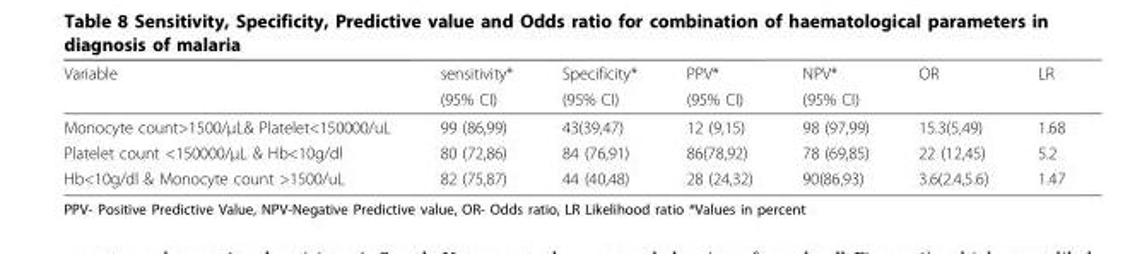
<table><thead><tr><td rowspan="2">Variable</td><td rowspan="2">sensitivity* (95% CI)</td><td rowspan="2">Specificity* (95% CI)</td><td rowspan="2">PPV* (95% CI)</td><td rowspan="2">NPV* (95% CI)</td><td rowspan="2">OR</td><td rowspan="2">LR</td></tr><tr></tr></thead><tbody><tr><td>Monocyte count&gt;1500/μL&amp; Platelet&lt;150000/uL</td><td>99 (86,99)</td><td>43(39,47)</td><td>12 (9,15)</td><td>98 (97,99)</td><td>15.3(5,49)</td><td>1.68</td></tr><tr><td>Platelet count &lt;150000/μL &amp; Hb&lt;10g/dl</td><td>80 (72,86)</td><td>84 (76,91)</td><td>86(78,92)</td><td>78 (69,85)</td><td>22 (12,45)</td><td>5.2</td></tr><tr><td>Hb&lt;10g/dl &amp; Monocyte count &gt;1500/uL</td><td>82 (75,87)</td><td>44 (40,48)</td><td>28 (24,32)</td><td>90(86,93)</td><td>3.6(2.4,5.6)</td><td>1.47</td></tr></tbody></table>